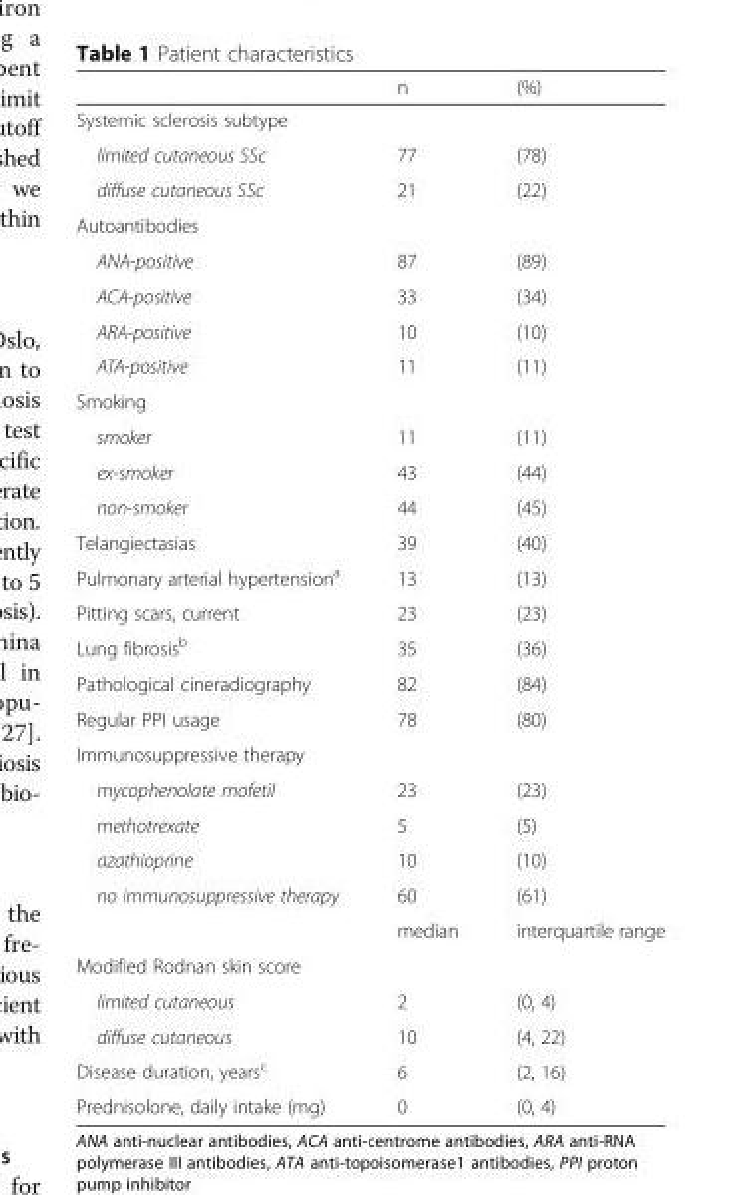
<table><thead><tr><td></td><td>n</td><td>(%)</td></tr></thead><tbody><tr><td colspan="3">Systemic sclerosis subtype</td></tr><tr><td>limited cutaneous SSc</td><td>77</td><td>(78)</td></tr><tr><td>diffuse cutaneous SSc</td><td>21</td><td>(22)</td></tr><tr><td colspan="3">Autoantibodies</td></tr><tr><td>ANA-positive</td><td>87</td><td>(89)</td></tr><tr><td>ACA-positive</td><td>33</td><td>(34)</td></tr><tr><td>ARA-positive</td><td>10</td><td>(10)</td></tr><tr><td>ATA-positive</td><td>11</td><td>(11)</td></tr><tr><td colspan="3">Smoking</td></tr><tr><td>smoker</td><td>11</td><td>(11)</td></tr><tr><td>ex-smoker</td><td>43</td><td>(44)</td></tr><tr><td>non-smoker</td><td>44</td><td>(45)</td></tr><tr><td>Telangiectasias</td><td>39</td><td>(40)</td></tr><tr><td>Pulmonary arterial hypertension<sup>a</sup></td><td>13</td><td>(13)</td></tr><tr><td>Pitting scars, current</td><td>23</td><td>(23)</td></tr><tr><td>Lung fibrosis<sup>b</sup></td><td>35</td><td>(36)</td></tr><tr><td>Pathological cineradiography</td><td>82</td><td>(84)</td></tr><tr><td>Regular PPI usage</td><td>78</td><td>(80)</td></tr><tr><td colspan="3">Immunosuppressive therapy</td></tr><tr><td>mycophenolate mofetil</td><td>23</td><td>(23)</td></tr><tr><td>methotrexate</td><td>5</td><td>(5)</td></tr><tr><td>azathioprine</td><td>10</td><td>(10)</td></tr><tr><td rowspan="2">no immunosuppressive therapy</td><td>60</td><td>(61)</td></tr><tr><td>median</td><td>interquartile range</td></tr><tr><td colspan="3">Modified Rodnan skin score</td></tr><tr><td>limited cutaneous</td><td>2</td><td>(0, 4)</td></tr><tr><td>diffuse cutaneous</td><td>10</td><td>(4, 22)</td></tr><tr><td>Disease duration, years<sup>c</sup></td><td>6</td><td>(2, 16)</td></tr><tr><td>Prednisolone, daily intake (mg)</td><td>0</td><td>(0, 4)</td></tr></tbody></table>